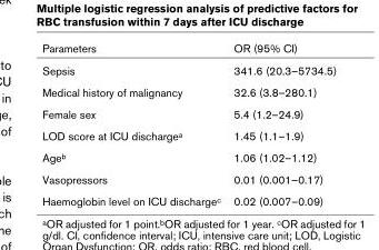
<table><thead><tr><td>Parameters</td><td>OR (95% CI)</td></tr></thead><tbody><tr><td>Sepsis</td><td>341.6 (20.3–5734.5)</td></tr><tr><td>Medical history of malignancy</td><td>32.6 (3.8–280.1)</td></tr><tr><td>Female sex</td><td>5.4 (1.2–24.9)</td></tr><tr><td>LOD score at ICU dischargea</td><td>1.45 (1.1–1.9)</td></tr><tr><td>Ageb</td><td>1.06 (1.02–1.12)</td></tr><tr><td>Vasopressors</td><td>0.01 (0.001–0.17)</td></tr><tr><td>Haemoglobin level on ICU dischargec</td><td>0.02 (0.007–0.09)</td></tr></tbody></table>